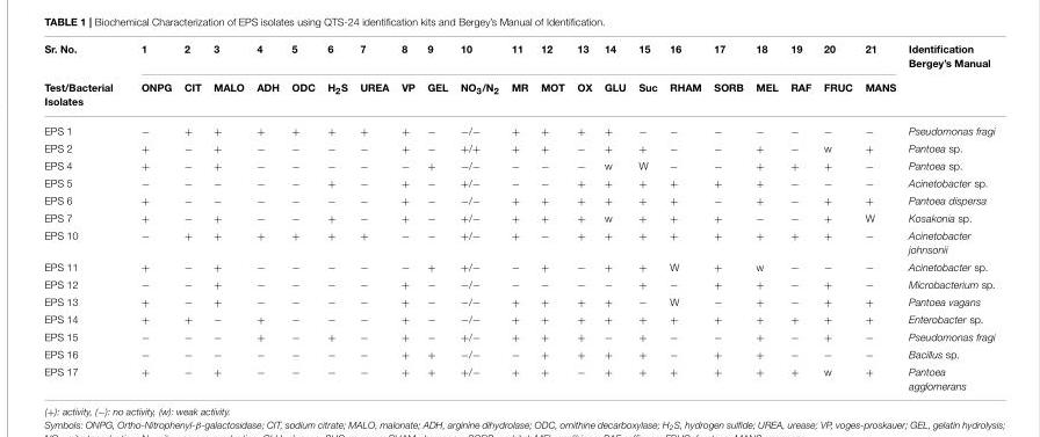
<table><thead><tr><td rowspan="2">Sr. No. Test/Bacterial Isolates</td><td rowspan="2">1 ONPG</td><td rowspan="2">2 CIT</td><td rowspan="2">3 MALO</td><td rowspan="2">4 ADH</td><td rowspan="2">5 ODC</td><td rowspan="2">6 H<sub>2</sub>S</td><td rowspan="2">7 UREA</td><td rowspan="2">8 VP</td><td rowspan="2">9 GEL</td><td rowspan="2">10 NO<sub>3</sub>/N<sub>2</sub></td><td rowspan="2">11 MR</td><td rowspan="2">12 MOT</td><td rowspan="2">13 OX</td><td rowspan="2">14 GLU</td><td rowspan="2">15 Suc</td><td rowspan="2">16 RHAM</td><td rowspan="2">17 SORB</td><td rowspan="2">18 MEL</td><td rowspan="2">19 RAF</td><td rowspan="2">20 FRUC</td><td rowspan="2">21 MANS</td><td rowspan="2">Identification Bergey’s Manual</td></tr><tr></tr></thead><tbody><tr><td>EPS 1</td><td>−</td><td>+</td><td>+</td><td>+</td><td>+</td><td>+</td><td>+</td><td>+</td><td>−</td><td>−/−</td><td>+</td><td>+</td><td>+</td><td>+</td><td>−</td><td>−</td><td>−</td><td>−</td><td>−</td><td>−</td><td>−</td><td>Pseudomonas fragi</td></tr><tr><td>EPS 2</td><td>+</td><td>−</td><td>+</td><td>−</td><td>−</td><td>−</td><td>−</td><td>+</td><td>−</td><td>+/+</td><td>+</td><td>+</td><td>−</td><td>+</td><td>+</td><td>−</td><td>−</td><td>+</td><td>−</td><td>w</td><td>+</td><td>Pantoea sp.</td></tr><tr><td>EPS 4</td><td>+</td><td>−</td><td>+</td><td>−</td><td>−</td><td>−</td><td>−</td><td>−</td><td>+</td><td>−/−</td><td>−</td><td>−</td><td>−</td><td>w</td><td>W</td><td>−</td><td>−</td><td>+</td><td>+</td><td>+</td><td>−</td><td>Pantoea sp.</td></tr><tr><td>EPS 5</td><td>−</td><td>−</td><td>−</td><td>−</td><td>−</td><td>+</td><td>−</td><td>+</td><td>−</td><td>+/−</td><td>−</td><td>−</td><td>+</td><td>+</td><td>+</td><td>+</td><td>+</td><td>+</td><td>−</td><td>−</td><td>−</td><td>Acinetobacter sp.</td></tr><tr><td>EPS 6</td><td>+</td><td>−</td><td>−</td><td>−</td><td>−</td><td>−</td><td>−</td><td>+</td><td>−</td><td>−/−</td><td>+</td><td>+</td><td>+</td><td>+</td><td>+</td><td>+</td><td>−</td><td>+</td><td>−</td><td>+</td><td>+</td><td>Pantoea dispersa</td></tr><tr><td>EPS 7</td><td>+</td><td>−</td><td>+</td><td>−</td><td>−</td><td>+</td><td>−</td><td>+</td><td>−</td><td>+/−</td><td>+</td><td>+</td><td>+</td><td>w</td><td>+</td><td>+</td><td>+</td><td>−</td><td>−</td><td>+</td><td>W</td><td>Kosakonia sp.</td></tr><tr><td>EPS 10</td><td>−</td><td>+</td><td>+</td><td>+</td><td>+</td><td>+</td><td>+</td><td>−</td><td>−</td><td>+/−</td><td>+</td><td>−</td><td>+</td><td>+</td><td>+</td><td>+</td><td>+</td><td>+</td><td>+</td><td>+</td><td>−</td><td>Acinetobacter johnsonii</td></tr><tr><td>EPS 11</td><td>+</td><td>−</td><td>+</td><td>−</td><td>−</td><td>−</td><td>−</td><td>−</td><td>+</td><td>+/−</td><td>−</td><td>+</td><td>−</td><td>+</td><td>+</td><td>W</td><td>+</td><td>w</td><td>−</td><td>−</td><td>−</td><td>Acinetobacter sp.</td></tr><tr><td>EPS 12</td><td>−</td><td>−</td><td>+</td><td>−</td><td>−</td><td>−</td><td>−</td><td>+</td><td>−</td><td>−/−</td><td>−</td><td>−</td><td>−</td><td>−</td><td>+</td><td>−</td><td>+</td><td>+</td><td>−</td><td>+</td><td>−</td><td>Microbacterium sp.</td></tr><tr><td>EPS 13</td><td>+</td><td>−</td><td>+</td><td>−</td><td>−</td><td>−</td><td>−</td><td>+</td><td>−</td><td>−/−</td><td>+</td><td>+</td><td>+</td><td>+</td><td>−</td><td>W</td><td>−</td><td>+</td><td>−</td><td>+</td><td>+</td><td>Pantoea vagans</td></tr><tr><td>EPS 14</td><td>+</td><td>+</td><td>−</td><td>+</td><td>−</td><td>−</td><td>−</td><td>+</td><td>−</td><td>−/−</td><td>+</td><td>+</td><td>+</td><td>+</td><td>+</td><td>+</td><td>+</td><td>+</td><td>+</td><td>+</td><td>+</td><td>Enterobacter sp.</td></tr><tr><td>EPS 15</td><td>−</td><td>−</td><td>−</td><td>+</td><td>−</td><td>+</td><td>−</td><td>+</td><td>−</td><td>+/−</td><td>+</td><td>+</td><td>+</td><td>−</td><td>+</td><td>−</td><td>−</td><td>+</td><td>−</td><td>+</td><td>−</td><td>Pseudomonas fragi</td></tr><tr><td>EPS 16</td><td>−</td><td>−</td><td>−</td><td>−</td><td>−</td><td>−</td><td>−</td><td>+</td><td>+</td><td>−/−</td><td>−</td><td>+</td><td>+</td><td>+</td><td>+</td><td>−</td><td>+</td><td>+</td><td>−</td><td>−</td><td>−</td><td>Bacillus sp.</td></tr><tr><td>EPS 17</td><td>+</td><td>−</td><td>+</td><td>−</td><td>−</td><td>−</td><td>−</td><td>+</td><td>+</td><td>+/−</td><td>+</td><td>+</td><td>−</td><td>+</td><td>+</td><td>+</td><td>+</td><td>+</td><td>+</td><td>w</td><td>+</td><td>Pantoea agglomerans</td></tr></tbody></table>